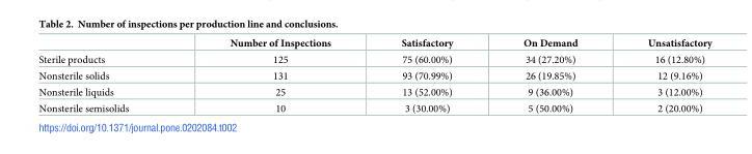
<table><thead><tr><td></td><td>Number of Inspections</td><td>Satisfactory</td><td>On Demand</td><td>Unsatisfactory</td></tr></thead><tbody><tr><td>Sterile products</td><td>125</td><td>75 (60.00%)</td><td>34 (27.20%)</td><td>16 (12.80%)</td></tr><tr><td>Nonsterile solids</td><td>131</td><td>93 (70.99%)</td><td>26 (19.85%)</td><td>12 (9.16%)</td></tr><tr><td>Nonsterile liquids</td><td>25</td><td>13 (52.00%)</td><td>9 (36.00%)</td><td>3 (12.00%)</td></tr><tr><td>Nonsterile semisolids</td><td>10</td><td>3 (30.00%)</td><td>5 (50.00%)</td><td>2 (20.00%)</td></tr></tbody></table>